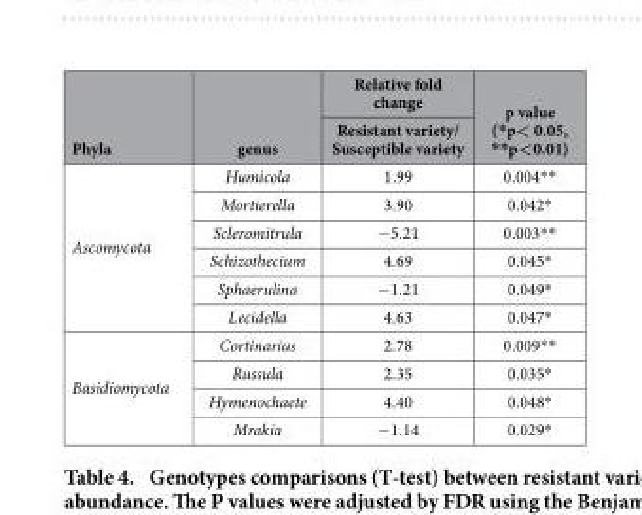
<table><thead><tr><td rowspan="2">Phyla</td><td rowspan="2">genus</td><td rowspan="2">Relative fold change Resistant variety/ Susceptible variety</td><td rowspan="2">p value (*p&lt; 0.05, **p&lt;0.01)</td></tr><tr></tr></thead><tbody><tr><td rowspan="6">Ascomycota</td><td>Humicola</td><td>1.99</td><td>0.004* *</td></tr><tr><td>Mortierella</td><td>3.90</td><td>0.042*</td></tr><tr><td>Scleromitrula</td><td>− 5.21</td><td>0.003* *</td></tr><tr><td>Schizothecium</td><td>4.69</td><td>0.045*</td></tr><tr><td>Sphaerulina</td><td>− 1.21</td><td>0.049*</td></tr><tr><td>Lecidella</td><td>4.63</td><td>0.047*</td></tr><tr><td rowspan="4">Basidiomycota</td><td>Cortinarius</td><td>2.78</td><td>0.009* *</td></tr><tr><td>Russula</td><td>2.35</td><td>0.035*</td></tr><tr><td>Hymenochaete</td><td>4.40</td><td>0.048*</td></tr><tr><td>Mrakia</td><td>− 1.14</td><td>0.029*</td></tr></tbody></table>